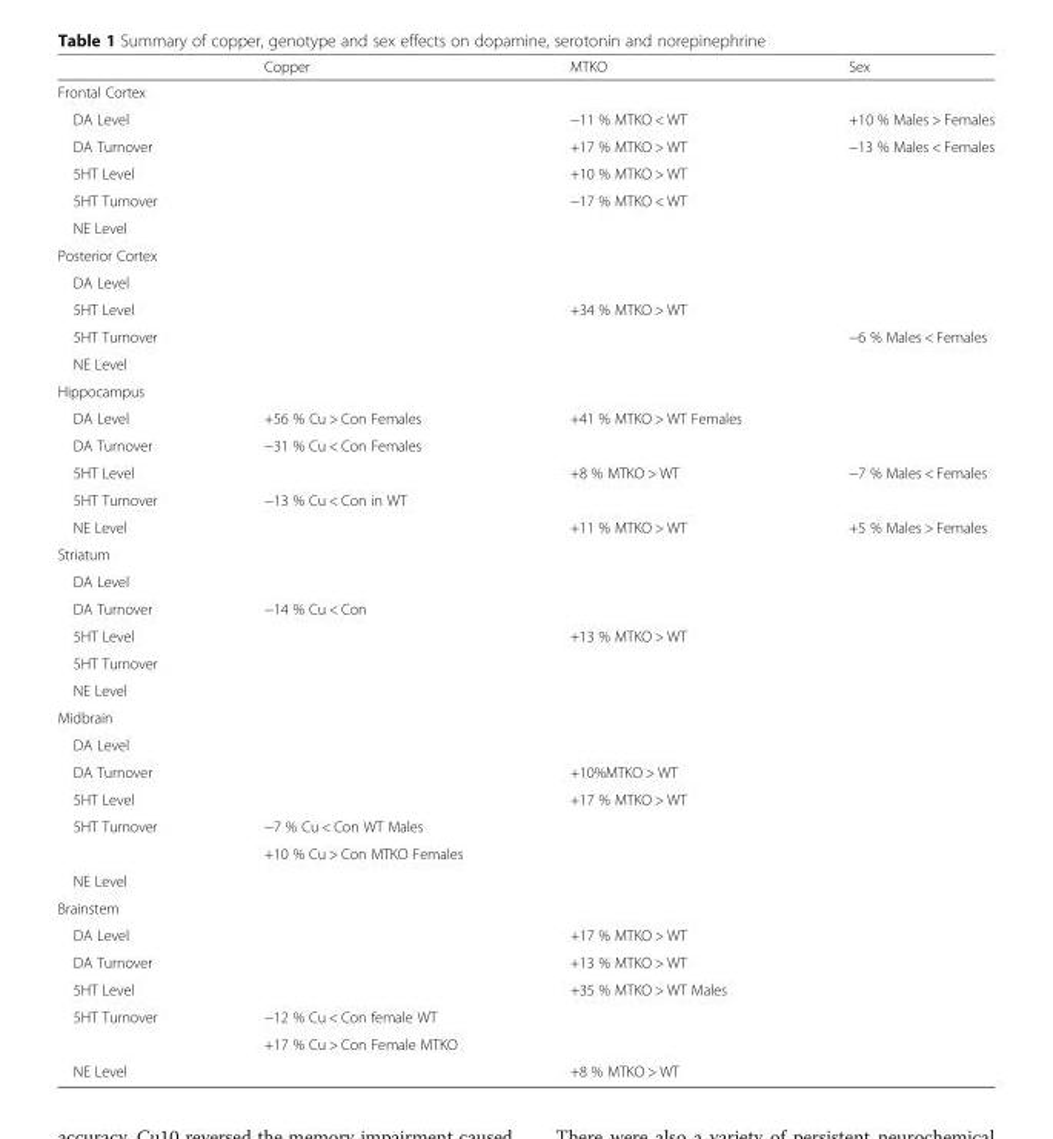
<table><thead><tr><td></td><td>Copper</td><td>MTKO</td><td>Sex</td></tr></thead><tbody><tr><td colspan="4">Frontal Cortex</td></tr><tr><td>DA Level</td><td></td><td>−11 % MTKO &lt; WT</td><td>+10 % Males &gt; Females</td></tr><tr><td>DA Turnover</td><td></td><td>+17 % MTKO &gt; WT</td><td>−13 % Males &lt; Females</td></tr><tr><td>5HT Level</td><td></td><td>+10 % MTKO &gt; WT</td><td></td></tr><tr><td>5HT Turnover</td><td></td><td>−17 % MTKO &lt; WT</td><td></td></tr><tr><td colspan="4">NE Level</td></tr><tr><td colspan="4">Posterior Cortex</td></tr><tr><td colspan="4">DA Level</td></tr><tr><td>5HT Level</td><td></td><td>+34 % MTKO &gt; WT</td><td></td></tr><tr><td>5HT Turnover</td><td></td><td></td><td>−6 % Males &lt; Females</td></tr><tr><td colspan="4">NE Level</td></tr><tr><td colspan="4">Hippocampus</td></tr><tr><td>DA Level</td><td>+56 % Cu &gt; Con Females</td><td>+41 % MTKO &gt; WT Females</td><td></td></tr><tr><td>DA Turnover</td><td>−31 % Cu &lt; Con Females</td><td></td><td></td></tr><tr><td>5HT Level</td><td></td><td>+8 % MTKO &gt; WT</td><td>−7 % Males &lt; Females</td></tr><tr><td>5HT Turnover</td><td>−13 % Cu &lt; Con in WT</td><td></td><td></td></tr><tr><td>NE Level</td><td></td><td>+11 % MTKO &gt; WT</td><td>+5 % Males &gt; Females</td></tr><tr><td colspan="4">Striatum</td></tr><tr><td colspan="4">DA Level</td></tr><tr><td>DA Turnover</td><td>−14 % Cu &lt; Con</td><td></td><td></td></tr><tr><td>5HT Level</td><td></td><td>+13 % MTKO &gt; WT</td><td></td></tr><tr><td colspan="4">5HT Turnover</td></tr><tr><td colspan="4">NE Level</td></tr><tr><td colspan="4">Midbrain</td></tr><tr><td colspan="4">DA Level</td></tr><tr><td>DA Turnover</td><td></td><td>+10%MTKO &gt; WT</td><td></td></tr><tr><td>5HT Level</td><td></td><td>+17 % MTKO &gt; WT</td><td></td></tr><tr><td rowspan="2">5HT Turnover</td><td>−7 % Cu &lt; Con WT Males</td><td rowspan="2"></td><td rowspan="2"></td></tr><tr><td>+10 % Cu &gt; Con MTKO Females</td></tr><tr><td colspan="4">NE Level</td></tr><tr><td colspan="4">Brainstem</td></tr><tr><td>DA Level</td><td></td><td>+17 % MTKO &gt; WT</td><td></td></tr><tr><td>DA Turnover</td><td></td><td>+13 % MTKO &gt; WT</td><td></td></tr><tr><td>5HT Level</td><td></td><td>+35 % MTKO &gt; WT Males</td><td></td></tr><tr><td rowspan="2">5HT Turnover</td><td>−12 % Cu &lt; Con female WT</td><td rowspan="2"></td><td rowspan="2"></td></tr><tr><td>+17 % Cu &gt; Con Female MTKO</td></tr><tr><td>NE Level</td><td></td><td>+8 % MTKO &gt; WT</td><td></td></tr></tbody></table>